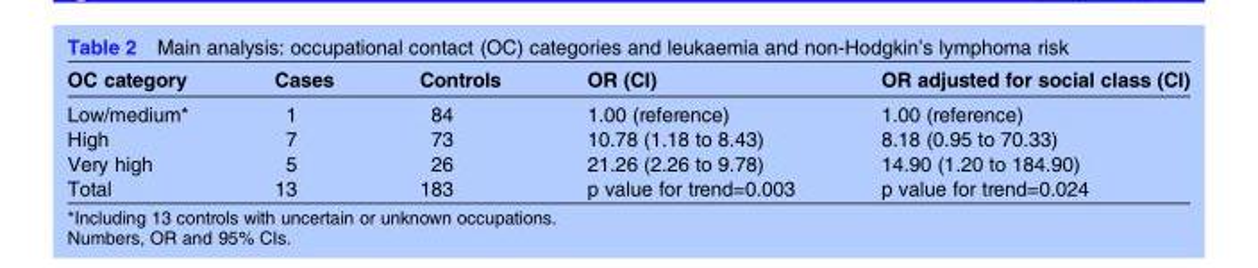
<table><thead><tr><td>OC category</td><td>Cases</td><td>Controls</td><td>OR (CI)</td><td>OR adjusted for social class (CI)</td></tr></thead><tbody><tr><td>Low/medium*</td><td>1</td><td>84</td><td>1.00 (reference)</td><td>1.00 (reference)</td></tr><tr><td>High</td><td>7</td><td>73</td><td>10.78 (1.18 to 8.43)</td><td>8.18 (0.95 to 70.33)</td></tr><tr><td>Very high</td><td>5</td><td>26</td><td>21.26 (2.26 to 9.78)</td><td>14.90 (1.20 to 184.90)</td></tr><tr><td>Total</td><td>13</td><td>183</td><td>p value for trend=0.003</td><td>p value for trend=0.024</td></tr></tbody></table>